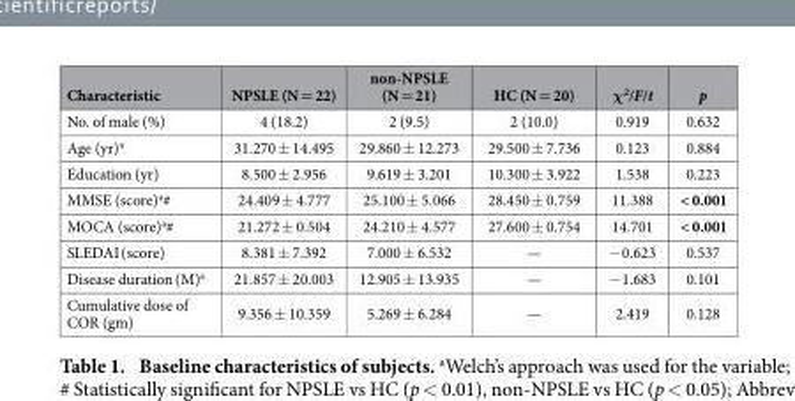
<table><thead><tr><td>Characteristic</td><td>NPSLE (N = 22)</td><td>non-NPSLE (N = 21)</td><td>HC (N = 20)</td><td>χ<sup>2</sup>/F/t</td><td>p</td></tr></thead><tbody><tr><td>No. of male (%)</td><td>4 (18.2)</td><td>2 (9.5)</td><td>2 (10.0)</td><td>0.919</td><td>0.632</td></tr><tr><td>Age (yr)<sup>a</sup></td><td>31.270 ± 14.495</td><td>29.860 ± 12.273</td><td>29.500 ± 7.736</td><td>0.123</td><td>0.884</td></tr><tr><td>Education (yr)</td><td>8.500 ± 2.956</td><td>9.619 ± 3.201</td><td>10.300 ± 3.922</td><td>1.538</td><td>0.223</td></tr><tr><td>MMSE (score)<sup>a</sup>#</td><td>24.409 ± 4.777</td><td>25.100 ± 5.066</td><td>28.450 ± 0.759</td><td>11.388</td><td>&lt; 0.001</td></tr><tr><td>MOCA (score)<sup>a</sup>#</td><td>21.272 ± 0.504</td><td>24.210 ± 4.577</td><td>27.600 ± 0.754</td><td>14.701</td><td>&lt; 0.001</td></tr><tr><td>SLEDAI (score)</td><td>8.381 ± 7.392</td><td>7.000 ± 6.532</td><td>—</td><td>− 0.623</td><td>0.537</td></tr><tr><td>Disease duration (M)<sup>a</sup></td><td>21.857 ± 20.003</td><td>12.905 ± 13.935</td><td>—</td><td>− 1.683</td><td>0.101</td></tr><tr><td>Cumulative dose of COR (gm)</td><td>9.356 ± 10.359</td><td>5.269 ± 6.284</td><td>—</td><td>2.419</td><td>0.128</td></tr></tbody></table>